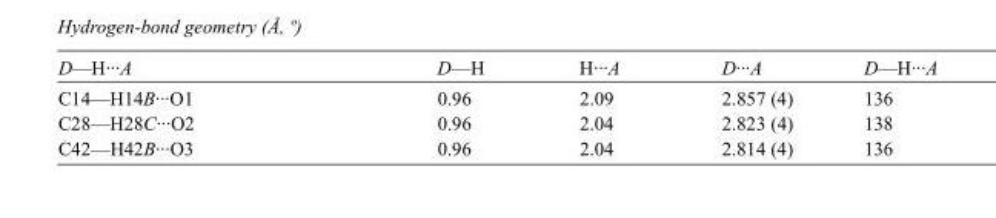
<table><tbody><tr><td>D—H···A</td><td>D—H</td><td>H···A</td><td>D···A</td><td>D—H···A</td></tr><tr><td>C14—H14B···O1</td><td>0.96</td><td>2.09</td><td>2.857 (4)</td><td>136</td></tr><tr><td>C28—H28C···O2</td><td>0.96</td><td>2.04</td><td>2.823 (4)</td><td>138</td></tr><tr><td>C42—H42B···O3</td><td>0.96</td><td>2.04</td><td>2.814 (4)</td><td>136</td></tr></tbody></table>